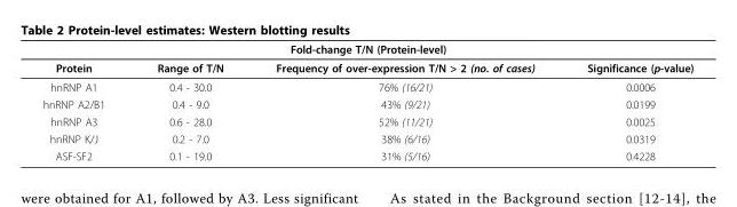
<table><thead><tr><td colspan="4">Fold-change T/N (Protein-level)</td></tr><tr><td>Protein</td><td>Range of T/N</td><td>Frequency of over-expression T/N &gt; 2 (no. of cases)</td><td>Significance (p-value)</td></tr></thead><tbody><tr><td>hnRNP A1</td><td>0.4 - 30.0</td><td>76% (16/21)</td><td>0.0006</td></tr><tr><td>hnRNP A2/B1</td><td>0.4 - 9.0</td><td>43% (9/21)</td><td>0.0199</td></tr><tr><td>hnRNP A3</td><td>0.6 - 28.0</td><td>52% (11/21)</td><td>0.0025</td></tr><tr><td>hnRNP K/J</td><td>0.2 - 7.0</td><td>38% (6/16)</td><td>0.0319</td></tr><tr><td>ASF-SF2</td><td>0.1 - 19.0</td><td>31% (5/16)</td><td>0.4228</td></tr></tbody></table>